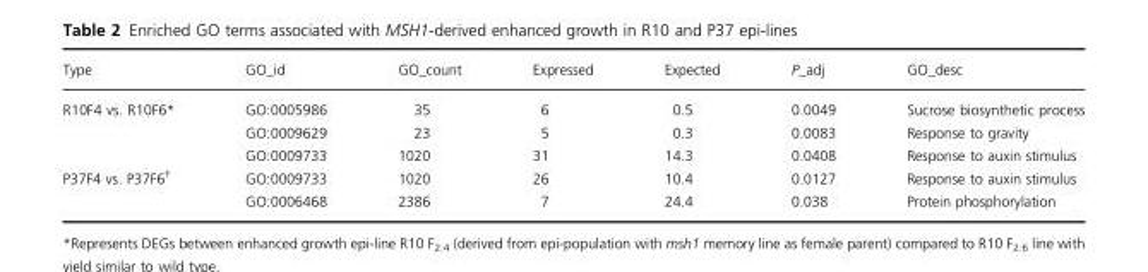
<table><thead><tr><td>Type</td><td>GO_id</td><td>GO_count</td><td>Expressed</td><td>Expected</td><td>P_adj</td><td>GO_desc</td></tr></thead><tbody><tr><td rowspan="3">R10F4 vs. R10F6*</td><td>GO:0005986</td><td>35</td><td>6</td><td>0.5</td><td>0.0049</td><td>Sucrose biosynthetic process</td></tr><tr><td>GO:0009629</td><td>23</td><td>5</td><td>0.3</td><td>0.0083</td><td>Response to gravity</td></tr><tr><td>GO:0009733</td><td>1020</td><td>31</td><td>14.3</td><td>0.0408</td><td>Response to auxin stimulus</td></tr><tr><td rowspan="2">P37F4 vs. P37F6†</td><td>GO:0009733</td><td>1020</td><td>26</td><td>10.4</td><td>0.0127</td><td>Response to auxin stimulus</td></tr><tr><td>GO:0006468</td><td>2386</td><td>7</td><td>24.4</td><td>0.038</td><td>Protein phosphorylation</td></tr></tbody></table>